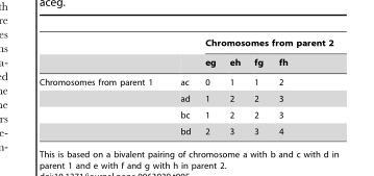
<table><thead><tr><td rowspan="2"></td><td rowspan="2"></td><td colspan="4">Chromosomes from parent 2</td></tr><tr><td>eg</td><td>eh</td><td>fg</td><td>fh</td></tr></thead><tbody><tr><td rowspan="4">Chromosomes from parent 1</td><td>ac</td><td>0</td><td>1</td><td>1</td><td>2</td></tr><tr><td>ad</td><td>1</td><td>2</td><td>2</td><td>3</td></tr><tr><td>bc</td><td>1</td><td>2</td><td>2</td><td>3</td></tr><tr><td>bd</td><td>2</td><td>3</td><td>3</td><td>4</td></tr></tbody></table>